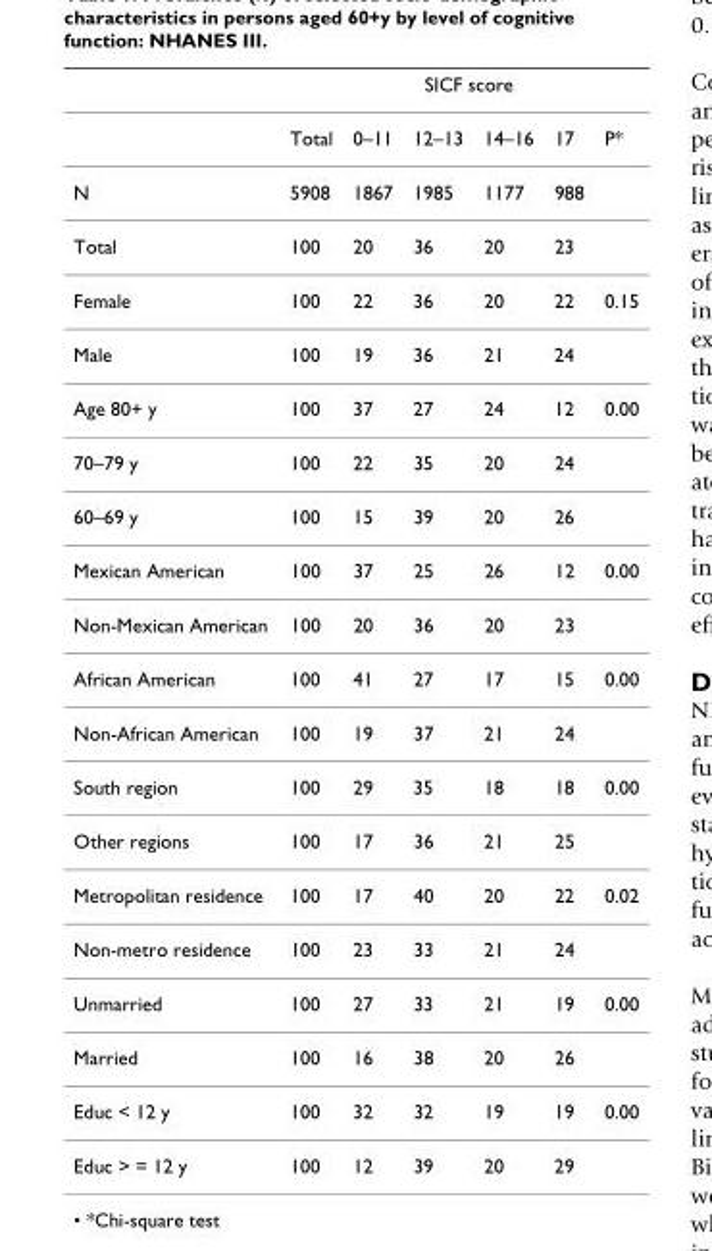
<table><thead><tr><td rowspan="2"></td><td rowspan="2">Total</td><td colspan="4">SICF score</td><td rowspan="2">P*</td></tr><tr><td>0–11</td><td>12–13</td><td>14–16</td><td>17</td></tr></thead><tbody><tr><td>N</td><td>5908</td><td>1867</td><td>1985</td><td>1177</td><td>988</td><td></td></tr><tr><td>Total</td><td>100</td><td>20</td><td>36</td><td>20</td><td>23</td><td></td></tr><tr><td>Female</td><td>100</td><td>22</td><td>36</td><td>20</td><td>22</td><td>0.15</td></tr><tr><td>Male</td><td>100</td><td>19</td><td>36</td><td>21</td><td>24</td><td></td></tr><tr><td>Age 80+ y</td><td>100</td><td>37</td><td>27</td><td>24</td><td>12</td><td>0.00</td></tr><tr><td>70–79 y</td><td>100</td><td>22</td><td>35</td><td>20</td><td>24</td><td></td></tr><tr><td>60–69 y</td><td>100</td><td>15</td><td>39</td><td>20</td><td>26</td><td></td></tr><tr><td>Mexican American</td><td>100</td><td>37</td><td>25</td><td>26</td><td>12</td><td>0.00</td></tr><tr><td>Non-Mexican American</td><td>100</td><td>20</td><td>36</td><td>20</td><td>23</td><td></td></tr><tr><td>African American</td><td>100</td><td>41</td><td>27</td><td>17</td><td>15</td><td>0.00</td></tr><tr><td>Non-African American</td><td>100</td><td>19</td><td>37</td><td>21</td><td>24</td><td></td></tr><tr><td>South region</td><td>100</td><td>29</td><td>35</td><td>18</td><td>18</td><td>0.00</td></tr><tr><td>Other regions</td><td>100</td><td>17</td><td>36</td><td>21</td><td>25</td><td></td></tr><tr><td>Metropolitan residence</td><td>100</td><td>17</td><td>40</td><td>20</td><td>22</td><td>0.02</td></tr><tr><td>Non-metro residence</td><td>100</td><td>23</td><td>33</td><td>21</td><td>24</td><td></td></tr><tr><td>Unmarried</td><td>100</td><td>27</td><td>33</td><td>21</td><td>19</td><td>0.00</td></tr><tr><td>Married</td><td>100</td><td>16</td><td>38</td><td>20</td><td>26</td><td></td></tr><tr><td>Educ &lt; 12 y</td><td>100</td><td>32</td><td>32</td><td>19</td><td>19</td><td>0.00</td></tr><tr><td>Educ &gt; = 12 y</td><td>100</td><td>12</td><td>39</td><td>20</td><td>29</td><td></td></tr></tbody></table>